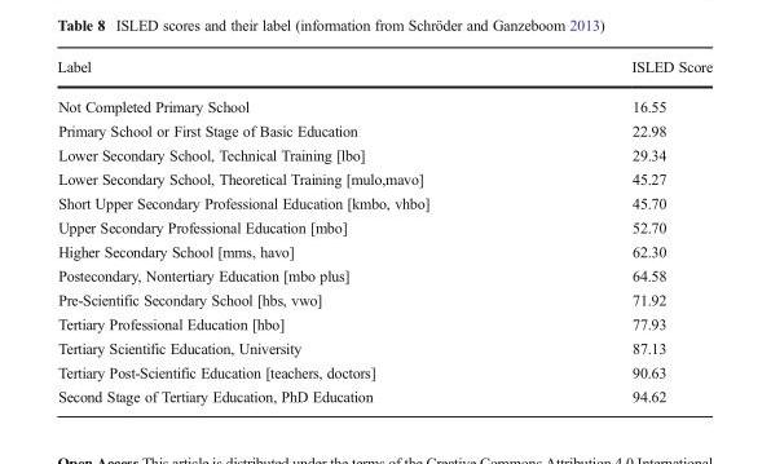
<table><thead><tr><td>Label</td><td>ISLED Score</td></tr></thead><tbody><tr><td>Not Completed Primary School</td><td>16.55</td></tr><tr><td>Primary School or First Stage of Basic Education</td><td>22.98</td></tr><tr><td>Lower Secondary School, Technical Training [lbo]</td><td>29.34</td></tr><tr><td>Lower Secondary School, Theoretical Training [mulo,mavo]</td><td>45.27</td></tr><tr><td>Short Upper Secondary Professional Education [kmbo, vhbo]</td><td>45.70</td></tr><tr><td>Upper Secondary Professional Education [mbo]</td><td>52.70</td></tr><tr><td>Higher Secondary School [mms, havo]</td><td>62.30</td></tr><tr><td>Postecondary, Nontertiary Education [mbo plus]</td><td>64.58</td></tr><tr><td>Pre-Scientific Secondary School [hbs, vwo]</td><td>71.92</td></tr><tr><td>Tertiary Professional Education [hbo]</td><td>77.93</td></tr><tr><td>Tertiary Scientific Education, University</td><td>87.13</td></tr><tr><td>Tertiary Post-Scientific Education [teachers, doctors]</td><td>90.63</td></tr><tr><td>Second Stage of Tertiary Education, PhD Education</td><td>94.62</td></tr></tbody></table>